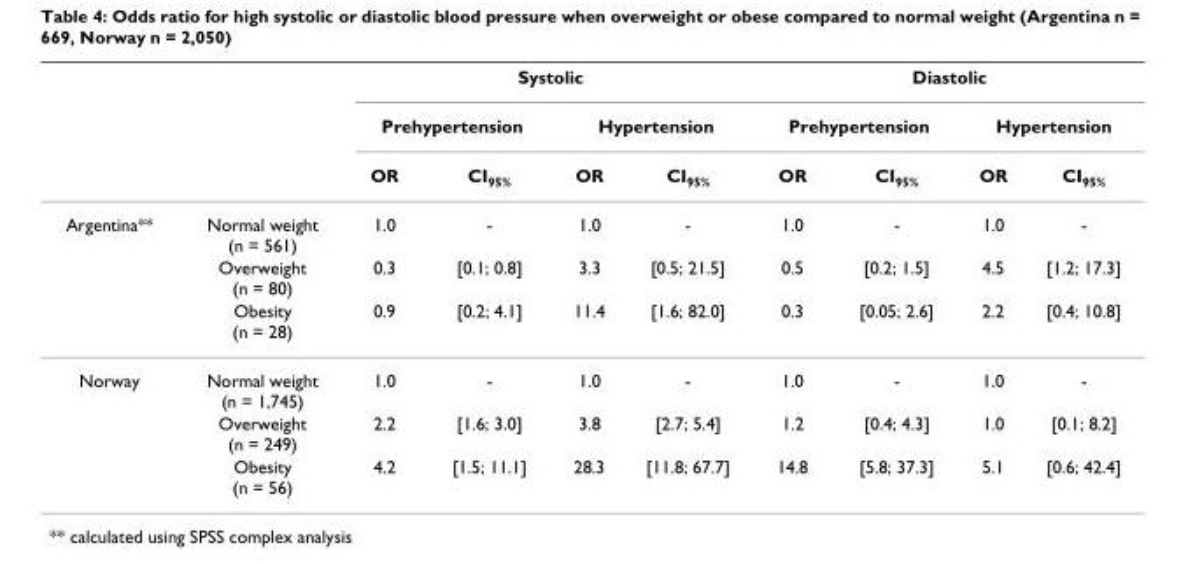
<table><thead><tr><td rowspan="3"></td><td rowspan="3"></td><td colspan="4">Systolic</td><td colspan="4">Diastolic</td></tr><tr><td colspan="2">Prehypertension</td><td colspan="2">Hypertension</td><td colspan="2">Prehypertension</td><td colspan="2">Hypertension</td></tr><tr><td>OR</td><td>CI<sub>95%</sub></td><td>OR</td><td>CI<sub>95%</sub></td><td>OR</td><td>CI<sub>95%</sub></td><td>OR</td><td>CI<sub>95%</sub></td></tr></thead><tbody><tr><td rowspan="3">Argentina**</td><td>Normal weight (n = 561)</td><td>1.0</td><td>-</td><td>1.0</td><td>-</td><td>1.0</td><td>-</td><td>1.0</td><td>-</td></tr><tr><td>Overweight (n = 80)</td><td>0.3</td><td>[0.1; 0.8]</td><td>3.3</td><td>[0.5; 21.5]</td><td>0.5</td><td>[0.2; 1.5]</td><td>4.5</td><td>[1.2; 17.3]</td></tr><tr><td>Obesity (n = 28)</td><td>0.9</td><td>[0.2; 4.1]</td><td>11.4</td><td>[1.6; 82.0]</td><td>0.3</td><td>[0.05; 2.6]</td><td>2.2</td><td>[0.4; 10.8]</td></tr><tr><td rowspan="3">Norway</td><td>Normal weight (n = 1,745)</td><td>1.0</td><td>-</td><td>1.0</td><td>-</td><td>1.0</td><td>-</td><td>1.0</td><td>-</td></tr><tr><td>Overweight (n = 249)</td><td>2.2</td><td>[1.6; 3.0]</td><td>3.8</td><td>[2.7; 5.4]</td><td>1.2</td><td>[0.4; 4.3]</td><td>1.0</td><td>[0.1; 8.2]</td></tr><tr><td>Obesity (n = 56)</td><td>4.2</td><td>[1.5; 11.1]</td><td>28.3</td><td>[11.8; 67.7]</td><td>14.8</td><td>[5.8; 37.3]</td><td>5.1</td><td>[0.6; 42.4]</td></tr></tbody></table>